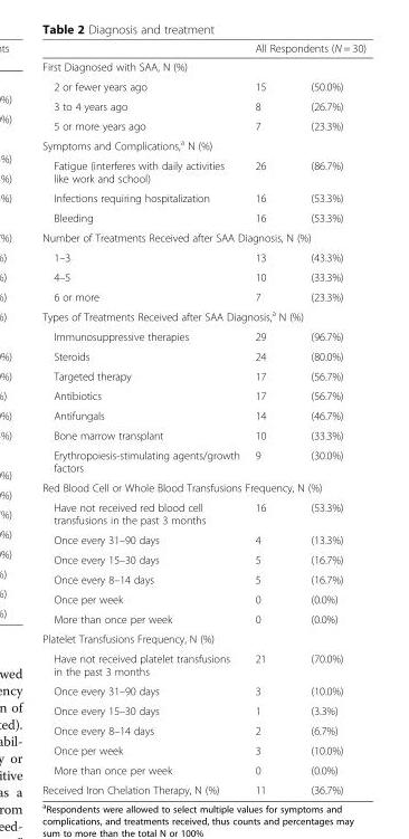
<table><thead><tr><td></td><td colspan="2">All Respondents (N = 30)</td></tr><tr><td colspan="3">First Diagnosed with SAA, N (%)</td></tr><tr><td>2 or fewer years ago</td><td>15</td><td>(50.0%)</td></tr></thead><tbody><tr><td>3 to 4 years ago</td><td>8</td><td>(26.7%)</td></tr><tr><td>5 or more years ago</td><td>7</td><td>(23.3%)</td></tr><tr><td colspan="3">Symptoms and Complications,<sup>a</sup> N (%)</td></tr><tr><td>Fatigue (interferes with daily activities like work and school)</td><td>26</td><td>(86.7%)</td></tr><tr><td>Infections requiring hospitalization</td><td>16</td><td>(53.3%)</td></tr><tr><td>Bleeding</td><td>16</td><td>(53.3%)</td></tr><tr><td colspan="3">Number of Treatments Received after SAA Diagnosis, N (%)</td></tr><tr><td>1–3</td><td>13</td><td>(43.3%)</td></tr><tr><td>4–5</td><td>10</td><td>(33.3%)</td></tr><tr><td>6 or more</td><td>7</td><td>(23.3%)</td></tr><tr><td colspan="3">Types of Treatments Received after SAA Diagnosis,<sup>a</sup> N (%)</td></tr><tr><td>Immunosuppressive therapies</td><td>29</td><td>(96.7%)</td></tr><tr><td>Steroids</td><td>24</td><td>(80.0%)</td></tr><tr><td>Targeted therapy</td><td>17</td><td>(56.7%)</td></tr><tr><td>Antibiotics</td><td>17</td><td>(56.7%)</td></tr><tr><td>Antifungals</td><td>14</td><td>(46.7%)</td></tr><tr><td>Bone marrow transplant</td><td>10</td><td>(33.3%)</td></tr><tr><td>Erythropoiesis-stimulating agents/growth factors</td><td>9</td><td>(30.0%)</td></tr><tr><td colspan="3">Red Blood Cell or Whole Blood Transfusions Frequency, N (%)</td></tr><tr><td>Have not received red blood cell transfusions in the past 3 months</td><td>16</td><td>(53.3%)</td></tr><tr><td>Once every 31–90 days</td><td>4</td><td>(13.3%)</td></tr><tr><td>Once every 15–30 days</td><td>5</td><td>(16.7%)</td></tr><tr><td>Once every 8–14 days</td><td>5</td><td>(16.7%)</td></tr><tr><td>Once per week</td><td>0</td><td>(0.0%)</td></tr><tr><td>More than once per week</td><td>0</td><td>(0.0%)</td></tr><tr><td colspan="3">Platelet Transfusions Frequency, N (%)</td></tr><tr><td>Have not received platelet transfusions in the past 3 months</td><td>21</td><td>(70.0%)</td></tr><tr><td>Once every 31–90 days</td><td>3</td><td>(10.0%)</td></tr><tr><td>Once every 15–30 days</td><td>1</td><td>(3.3%)</td></tr><tr><td>Once every 8–14 days</td><td>2</td><td>(6.7%)</td></tr><tr><td>Once per week</td><td>3</td><td>(10.0%)</td></tr><tr><td>More than once per week</td><td>0</td><td>(0.0%)</td></tr><tr><td>Received Iron Chelation Therapy, N (%)</td><td>11</td><td>(36.7%)</td></tr></tbody></table>